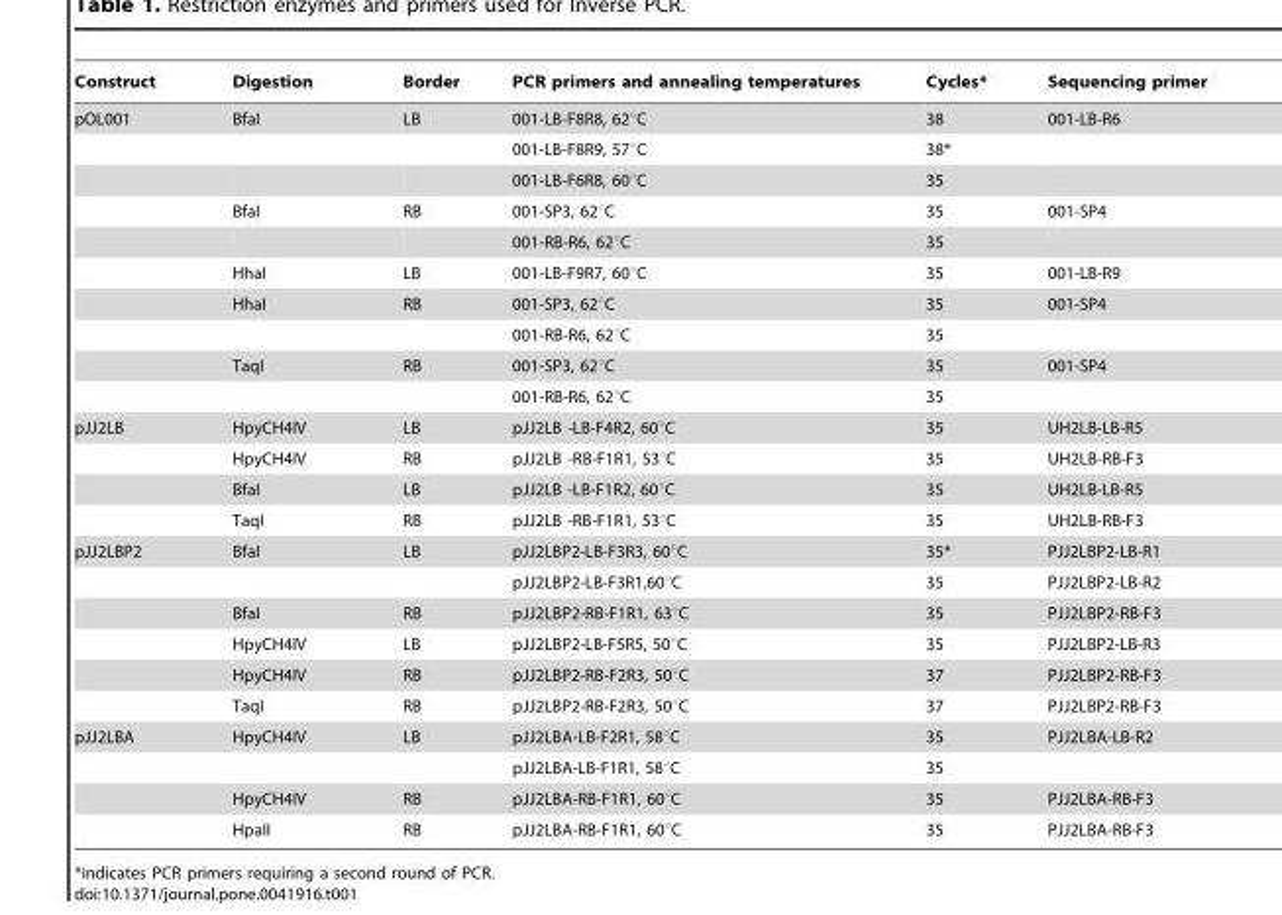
<table><thead><tr><td>Construct</td><td>Digestion</td><td>Border</td><td>PCR primers and annealing temperatures</td><td>Cycles*</td><td>Sequencing primer</td></tr></thead><tbody><tr><td rowspan="10">pOL001</td><td>BfaI</td><td>LB</td><td>001-LB-F8R8, 62°C</td><td>38</td><td>001-LB-R6</td></tr><tr><td></td><td></td><td>001-LB-F8R9, 57°C</td><td>38*</td><td></td></tr><tr><td></td><td></td><td>001-LB-F6R8, 60°C</td><td>35</td><td></td></tr><tr><td>BfaI</td><td>RB</td><td>001-SP3, 62°C</td><td>35</td><td>001-SP4</td></tr><tr><td></td><td></td><td>001-RB-R6, 62°C</td><td>35</td><td></td></tr><tr><td>HhaI</td><td>LB</td><td>001-LB-F9R7, 60°C</td><td>35</td><td>001-LB-R9</td></tr><tr><td>HhaI</td><td>RB</td><td>001-SP3, 62°C</td><td>35</td><td>001-SP4</td></tr><tr><td></td><td></td><td>001-RB-R6, 62°C</td><td>35</td><td></td></tr><tr><td>TaqI</td><td>RB</td><td>001-SP3, 62°C</td><td>35</td><td>001-SP4</td></tr><tr><td></td><td></td><td>001-RB-R6, 62°C</td><td>35</td><td></td></tr><tr><td rowspan="4">pJJ2LB</td><td>HpyCH4IV</td><td>LB</td><td>pJJ2LB -LB-F4R2, 60°C</td><td>35</td><td>UH2LB-LB-R5</td></tr><tr><td>HpyCH4IV</td><td>RB</td><td>pJJ2LB -RB-F1R1, 53°C</td><td>35</td><td>UH2LB-RB-F3</td></tr><tr><td>BfaI</td><td>LB</td><td>pJJ2LB -LB-F1R2, 60°C</td><td>35</td><td>UH2LB-LB-R5</td></tr><tr><td>TaqI</td><td>RB</td><td>pJJ2LB -RB-F1R1, 53°C</td><td>35</td><td>UH2LB-RB-F3</td></tr><tr><td rowspan="6">pJJ2LBP2</td><td>BfaI</td><td>LB</td><td>pJJ2LBP2-LB-F3R3, 60°C</td><td>35*</td><td>PJJ2LBP2-LB-R1</td></tr><tr><td></td><td></td><td>pJJ2LBP2-LB-F3R1,60°C</td><td>35</td><td>PJJ2LBP2-LB-R2</td></tr><tr><td>BfaI</td><td>RB</td><td>pJJ2LBP2-RB-F1R1, 63°C</td><td>35</td><td>PJJ2LBP2-RB-F3</td></tr><tr><td>HpyCH4IV</td><td>LB</td><td>pJJ2LBP2-LB-F5R5, 50°C</td><td>35</td><td>PJJ2LBP2-LB-R3</td></tr><tr><td>HpyCH4IV</td><td>RB</td><td>pJJ2LBP2-RB-F2R3, 50°C</td><td>37</td><td>PJJ2LBP2-RB-F3</td></tr><tr><td>TaqI</td><td>RB</td><td>pJJ2LBP2-RB-F2R3, 50°C</td><td>37</td><td>PJJ2LBP2-RB-F3</td></tr><tr><td rowspan="4">pJJ2LBA</td><td>HpyCH4IV</td><td>LB</td><td>pJJ2LBA-LB-F2R1, 58°C</td><td>35</td><td>PJJ2LBA-LB-R2</td></tr><tr><td></td><td></td><td>pJJ2LBA-LB-F1R1, 58°C</td><td>35</td><td></td></tr><tr><td>HpyCH4IV</td><td>RB</td><td>pJJ2LBA-RB-F1R1, 60°C</td><td>35</td><td>PJJ2LBA-RB-F3</td></tr><tr><td>HpaII</td><td>RB</td><td>pJJ2LBA-RB-F1R1, 60°C</td><td>35</td><td>PJJ2LBA-RB-F3</td></tr></tbody></table>